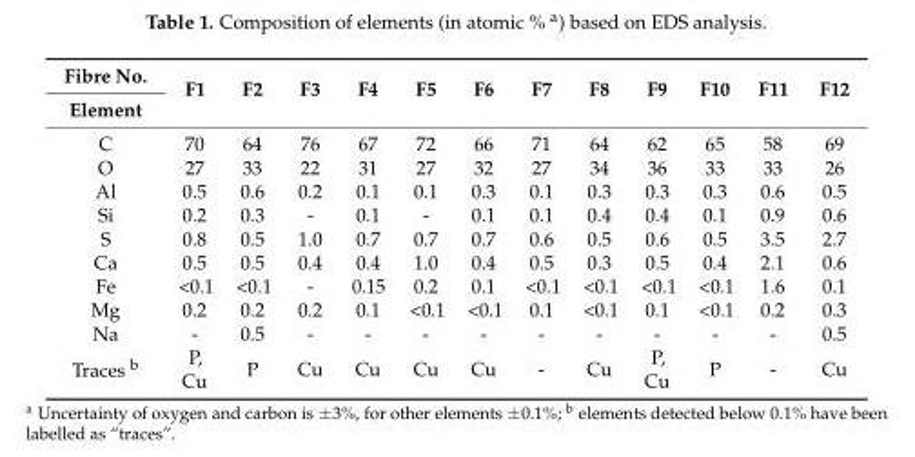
<table><thead><tr><td rowspan="2">Fibre No. Element</td><td rowspan="2">F1</td><td rowspan="2">F2</td><td rowspan="2">F3</td><td rowspan="2">F4</td><td rowspan="2">F5</td><td rowspan="2">F6</td><td rowspan="2">F7</td><td rowspan="2">F8</td><td rowspan="2">F9</td><td rowspan="2">F10</td><td rowspan="2">F11</td><td rowspan="2">F12</td></tr><tr></tr></thead><tbody><tr><td>C</td><td>70</td><td>64</td><td>76</td><td>67</td><td>72</td><td>66</td><td>71</td><td>64</td><td>62</td><td>65</td><td>58</td><td>69</td></tr><tr><td>O</td><td>27</td><td>33</td><td>22</td><td>31</td><td>27</td><td>32</td><td>27</td><td>34</td><td>36</td><td>33</td><td>33</td><td>26</td></tr><tr><td>Al</td><td>0.5</td><td>0.6</td><td>0.2</td><td>0.1</td><td>0.1</td><td>0.3</td><td>0.1</td><td>0.3</td><td>0.3</td><td>0.3</td><td>0.6</td><td>0.5</td></tr><tr><td>Si</td><td>0.2</td><td>0.3</td><td>-</td><td>0.1</td><td>-</td><td>0.1</td><td>0.1</td><td>0.4</td><td>0.4</td><td>0.1</td><td>0.9</td><td>0.6</td></tr><tr><td>S</td><td>0.8</td><td>0.5</td><td>1.0</td><td>0.7</td><td>0.7</td><td>0.7</td><td>0.6</td><td>0.5</td><td>0.6</td><td>0.5</td><td>3.5</td><td>2.7</td></tr><tr><td>Ca</td><td>0.5</td><td>0.5</td><td>0.4</td><td>0.4</td><td>1.0</td><td>0.4</td><td>0.5</td><td>0.3</td><td>0.5</td><td>0.4</td><td>2.1</td><td>0.6</td></tr><tr><td>Fe</td><td>&lt;0.1</td><td>&lt;0.1</td><td>-</td><td>0.15</td><td>0.2</td><td>0.1</td><td>&lt;0.1</td><td>&lt;0.1</td><td>&lt;0.1</td><td>&lt;0.1</td><td>1.6</td><td>0.1</td></tr><tr><td>Mg</td><td>0.2</td><td>0.2</td><td>0.2</td><td>0.1</td><td>&lt;0.1</td><td>&lt;0.1</td><td>0.1</td><td>&lt;0.1</td><td>0.1</td><td>&lt;0.1</td><td>0.2</td><td>0.3</td></tr><tr><td>Na</td><td>-</td><td>0.5</td><td>-</td><td>-</td><td>-</td><td>-</td><td>-</td><td>-</td><td>-</td><td>-</td><td>-</td><td>0.5</td></tr><tr><td>Traces <sup>b</sup></td><td>P, Cu</td><td>P</td><td>Cu</td><td>Cu</td><td>Cu</td><td>Cu</td><td>-</td><td>Cu</td><td>P, Cu</td><td>P</td><td>-</td><td>Cu</td></tr></tbody></table>